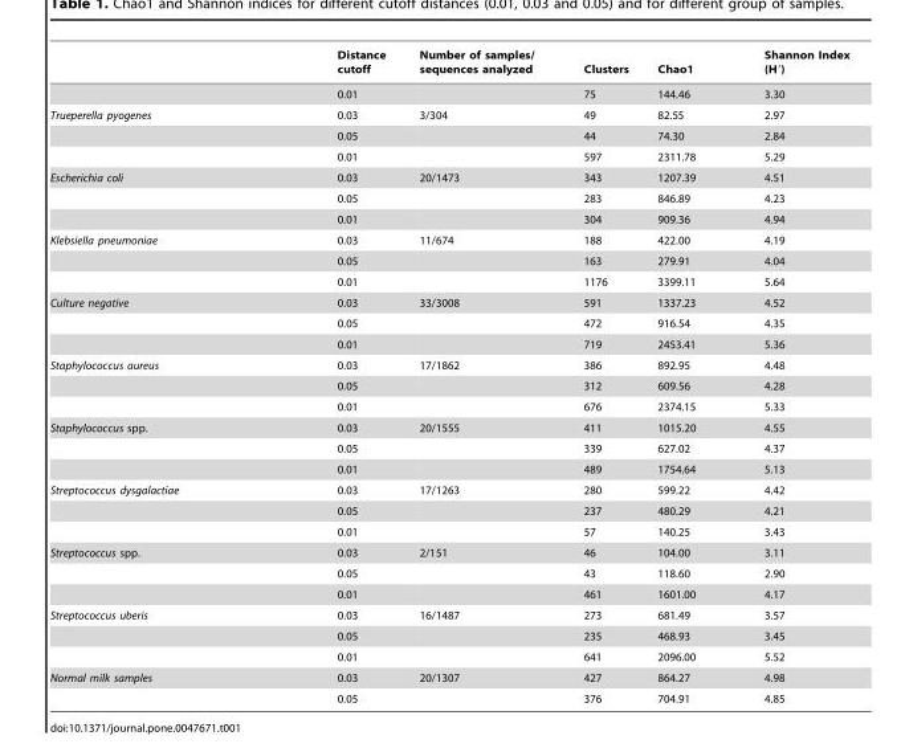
<table><thead><tr><td></td><td>Distance cutoff</td><td>Number of samples/ sequences analyzed</td><td>Clusters</td><td>Chao1</td><td>Shannon Index (H′)</td></tr></thead><tbody><tr><td></td><td>0.01</td><td></td><td>75</td><td>144.46</td><td>3.30</td></tr><tr><td rowspan="3">Trueperella pyogenes</td><td>0.03</td><td>3/304</td><td>49</td><td>82.55</td><td>2.97</td></tr><tr><td>0.05</td><td></td><td>44</td><td>74.30</td><td>2.84</td></tr><tr><td>0.01</td><td></td><td>597</td><td>2311.78</td><td>5.29</td></tr><tr><td rowspan="3">Escherichia coli</td><td>0.03</td><td>20/1473</td><td>343</td><td>1207.39</td><td>4.51</td></tr><tr><td>0.05</td><td></td><td>283</td><td>846.89</td><td>4.23</td></tr><tr><td>0.01</td><td></td><td>304</td><td>909.36</td><td>4.94</td></tr><tr><td rowspan="3">Klebsiella pneumoniae</td><td>0.03</td><td>11/674</td><td>188</td><td>422.00</td><td>4.19</td></tr><tr><td>0.05</td><td></td><td>163</td><td>279.91</td><td>4.04</td></tr><tr><td>0.01</td><td></td><td>1176</td><td>3399.11</td><td>5.64</td></tr><tr><td rowspan="3">Culture negative</td><td>0.03</td><td>33/3008</td><td>591</td><td>1337.23</td><td>4.52</td></tr><tr><td>0.05</td><td></td><td>472</td><td>916.54</td><td>4.35</td></tr><tr><td>0.01</td><td></td><td>719</td><td>2453.41</td><td>5.36</td></tr><tr><td rowspan="3">Staphylococcus aureus</td><td>0.03</td><td>17/1862</td><td>386</td><td>892.95</td><td>4.48</td></tr><tr><td>0.05</td><td></td><td>312</td><td>609.56</td><td>4.28</td></tr><tr><td>0.01</td><td></td><td>676</td><td>2374.15</td><td>5.33</td></tr><tr><td rowspan="3">Staphylococcus spp.</td><td>0.03</td><td>20/1555</td><td>411</td><td>1015.20</td><td>4.55</td></tr><tr><td>0.05</td><td></td><td>339</td><td>627.02</td><td>4.37</td></tr><tr><td>0.01</td><td></td><td>489</td><td>1754.64</td><td>5.13</td></tr><tr><td rowspan="3">Streptococcus dysgalactiae</td><td>0.03</td><td>17/1263</td><td>280</td><td>599.22</td><td>4.42</td></tr><tr><td>0.05</td><td></td><td>237</td><td>480.29</td><td>4.21</td></tr><tr><td>0.01</td><td></td><td>57</td><td>140.25</td><td>3.43</td></tr><tr><td rowspan="3">Streptococcus spp.</td><td>0.03</td><td>2/151</td><td>46</td><td>104.00</td><td>3.11</td></tr><tr><td>0.05</td><td></td><td>43</td><td>118.60</td><td>2.90</td></tr><tr><td>0.01</td><td></td><td>461</td><td>1601.00</td><td>4.17</td></tr><tr><td rowspan="3">Streptococcus uberis</td><td>0.03</td><td>16/1487</td><td>273</td><td>681.49</td><td>3.57</td></tr><tr><td>0.05</td><td></td><td>235</td><td>468.93</td><td>3.45</td></tr><tr><td>0.01</td><td></td><td>641</td><td>2096.00</td><td>5.52</td></tr><tr><td rowspan="2">Normal milk samples</td><td>0.03</td><td>20/1307</td><td>427</td><td>864.27</td><td>4.98</td></tr><tr><td>0.05</td><td></td><td>376</td><td>704.91</td><td>4.85</td></tr></tbody></table>